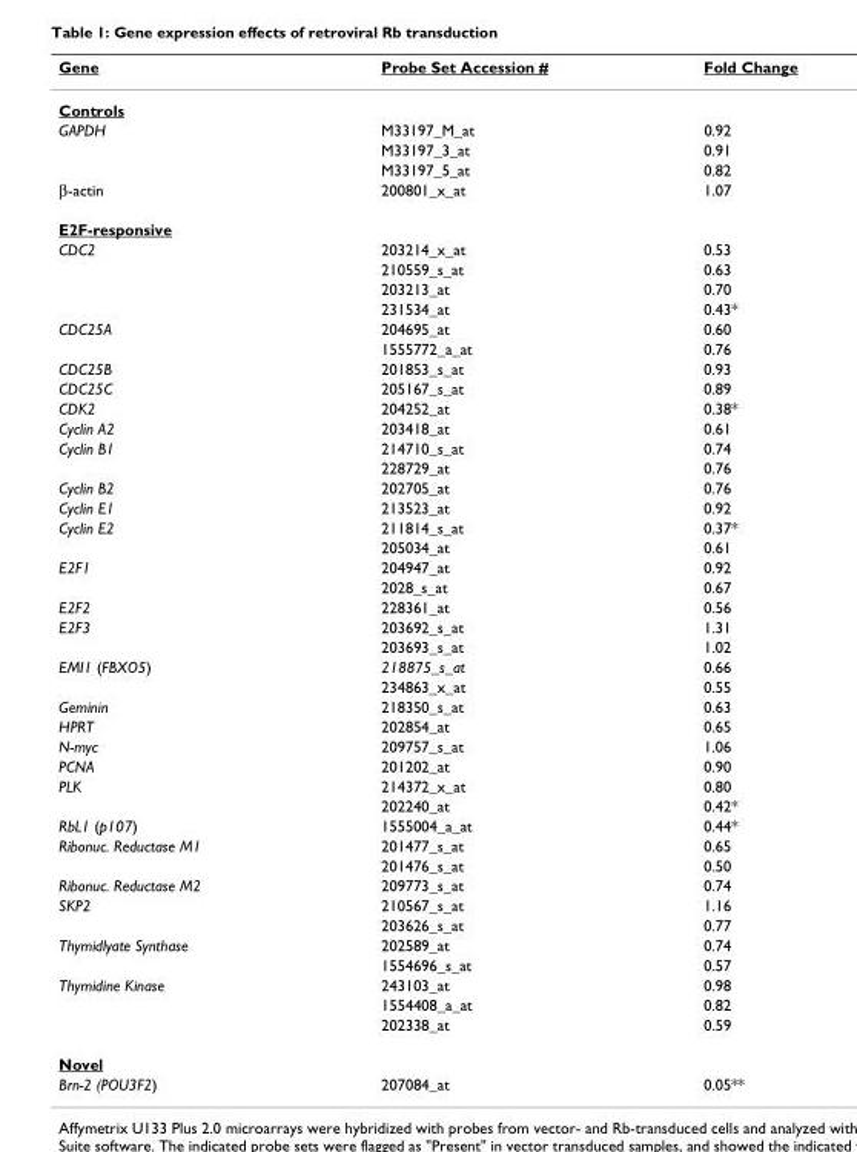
<table><thead><tr><td>Gene</td><td>Probe Set Accession #</td><td>Fold Change</td></tr></thead><tbody><tr><td colspan="3">Controls</td></tr><tr><td rowspan="3">GAPDH</td><td>M33197_M_at</td><td>0.92</td></tr><tr><td>M33197_3_at</td><td>0.91</td></tr><tr><td>M33197_5_at</td><td>0.82</td></tr><tr><td>β-actin</td><td>200801_x_at</td><td>1.07</td></tr><tr><td colspan="3">E2F-responsive</td></tr><tr><td rowspan="4">CDC2</td><td>203214_x_at</td><td>0.53</td></tr><tr><td>210559_s_at</td><td>0.63</td></tr><tr><td>203213_at</td><td>0.70</td></tr><tr><td>231534_at</td><td>0.43*</td></tr><tr><td rowspan="2">CDC25A</td><td>204695_at</td><td>0.60</td></tr><tr><td>1555772_a_at</td><td>0.76</td></tr><tr><td>CDC25B</td><td>201853_s_at</td><td>0.93</td></tr><tr><td>CDC25C</td><td>205167_s_at</td><td>0.89</td></tr><tr><td>CDK2</td><td>204252_at</td><td>0.38*</td></tr><tr><td>Cyclin A2</td><td>203418_at</td><td>0.61</td></tr><tr><td rowspan="2">Cyclin B1</td><td>214710_s_at</td><td>0.74</td></tr><tr><td>228729_at</td><td>0.76</td></tr><tr><td>Cyclin B2</td><td>202705_at</td><td>0.76</td></tr><tr><td>Cyclin E1</td><td>213523_at</td><td>0.92</td></tr><tr><td rowspan="2">Cyclin E2</td><td>211814_s_at</td><td>0.37*</td></tr><tr><td>205034_at</td><td>0.61</td></tr><tr><td rowspan="2">E2F1</td><td>204947_at</td><td>0.92</td></tr><tr><td>2028_s_at</td><td>0.67</td></tr><tr><td>E2F2</td><td>228361_at</td><td>0.56</td></tr><tr><td rowspan="2">E2F3</td><td>203692_s_at</td><td>1.31</td></tr><tr><td>203693_s_at</td><td>1.02</td></tr><tr><td rowspan="2">EMI1 (FBXO5)</td><td>218875_s_at</td><td>0.66</td></tr><tr><td>234863_x_at</td><td>0.55</td></tr><tr><td>Geminin</td><td>218350_s_at</td><td>0.63</td></tr><tr><td>HPRT</td><td>202854_at</td><td>0.65</td></tr><tr><td>N-myc</td><td>209757_s_at</td><td>1.06</td></tr><tr><td>PCNA</td><td>201202_at</td><td>0.90</td></tr><tr><td rowspan="2">PLK</td><td>214372_x_at</td><td>0.80</td></tr><tr><td>202240_at</td><td>0.42*</td></tr><tr><td>RbL1 (p107)</td><td>1555004_a_at</td><td>0.44*</td></tr><tr><td rowspan="2">Ribonuc. Reductase M1</td><td>201477_s_at</td><td>0.65</td></tr><tr><td>201476_s_at</td><td>0.50</td></tr><tr><td>Ribonuc. Reductase M2</td><td>209773_s_at</td><td>0.74</td></tr><tr><td rowspan="2">SKP2</td><td>210567_s_at</td><td>1.16</td></tr><tr><td>203626_s_at</td><td>0.77</td></tr><tr><td rowspan="2">Thymidlyate Synthase</td><td>202589_at</td><td>0.74</td></tr><tr><td>1554696_s_at</td><td>0.57</td></tr><tr><td rowspan="3">Thymidine Kinase</td><td>243103_at</td><td>0.98</td></tr><tr><td>1554408_a_at</td><td>0.82</td></tr><tr><td>202338_at</td><td>0.59</td></tr><tr><td colspan="3">Novel</td></tr><tr><td>Brn-2 (POU3F2)</td><td>207084_at</td><td>0.05**</td></tr></tbody></table>